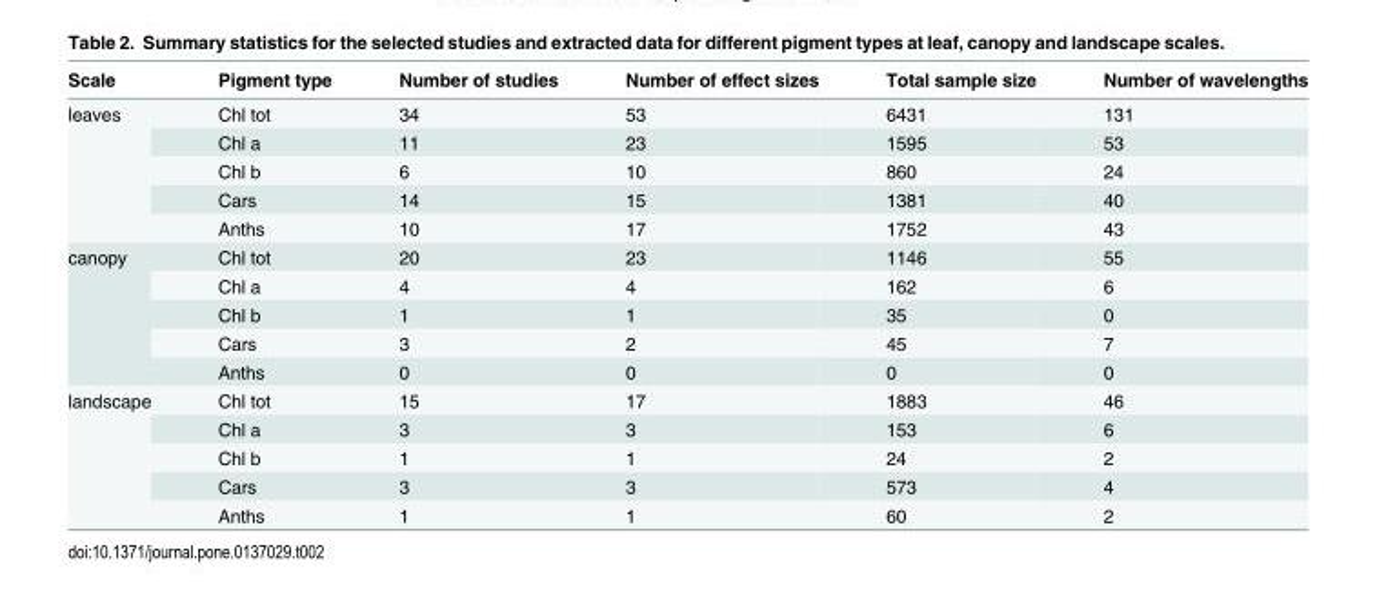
<table><thead><tr><td>Scale</td><td>Pigment type</td><td>Number of studies</td><td>Number of effect sizes</td><td>Total sample size</td><td>Number of wavelengths</td></tr></thead><tbody><tr><td rowspan="5">leaves</td><td>Chl tot</td><td>34</td><td>53</td><td>6431</td><td>131</td></tr><tr><td>Chl a</td><td>11</td><td>23</td><td>1595</td><td>53</td></tr><tr><td>Chl b</td><td>6</td><td>10</td><td>860</td><td>24</td></tr><tr><td>Cars</td><td>14</td><td>15</td><td>1381</td><td>40</td></tr><tr><td>Anths</td><td>10</td><td>17</td><td>1752</td><td>43</td></tr><tr><td rowspan="5">canopy</td><td>Chl tot</td><td>20</td><td>23</td><td>1146</td><td>55</td></tr><tr><td>Chl a</td><td>4</td><td>4</td><td>162</td><td>6</td></tr><tr><td>Chl b</td><td>1</td><td>1</td><td>35</td><td>0</td></tr><tr><td>Cars</td><td>3</td><td>2</td><td>45</td><td>7</td></tr><tr><td>Anths</td><td>0</td><td>0</td><td>0</td><td>0</td></tr><tr><td rowspan="5">landscape</td><td>Chl tot</td><td>15</td><td>17</td><td>1883</td><td>46</td></tr><tr><td>Chl a</td><td>3</td><td>3</td><td>153</td><td>6</td></tr><tr><td>Chl b</td><td>1</td><td>1</td><td>24</td><td>2</td></tr><tr><td>Cars</td><td>3</td><td>3</td><td>573</td><td>4</td></tr><tr><td>Anths</td><td>1</td><td>1</td><td>60</td><td>2</td></tr></tbody></table>